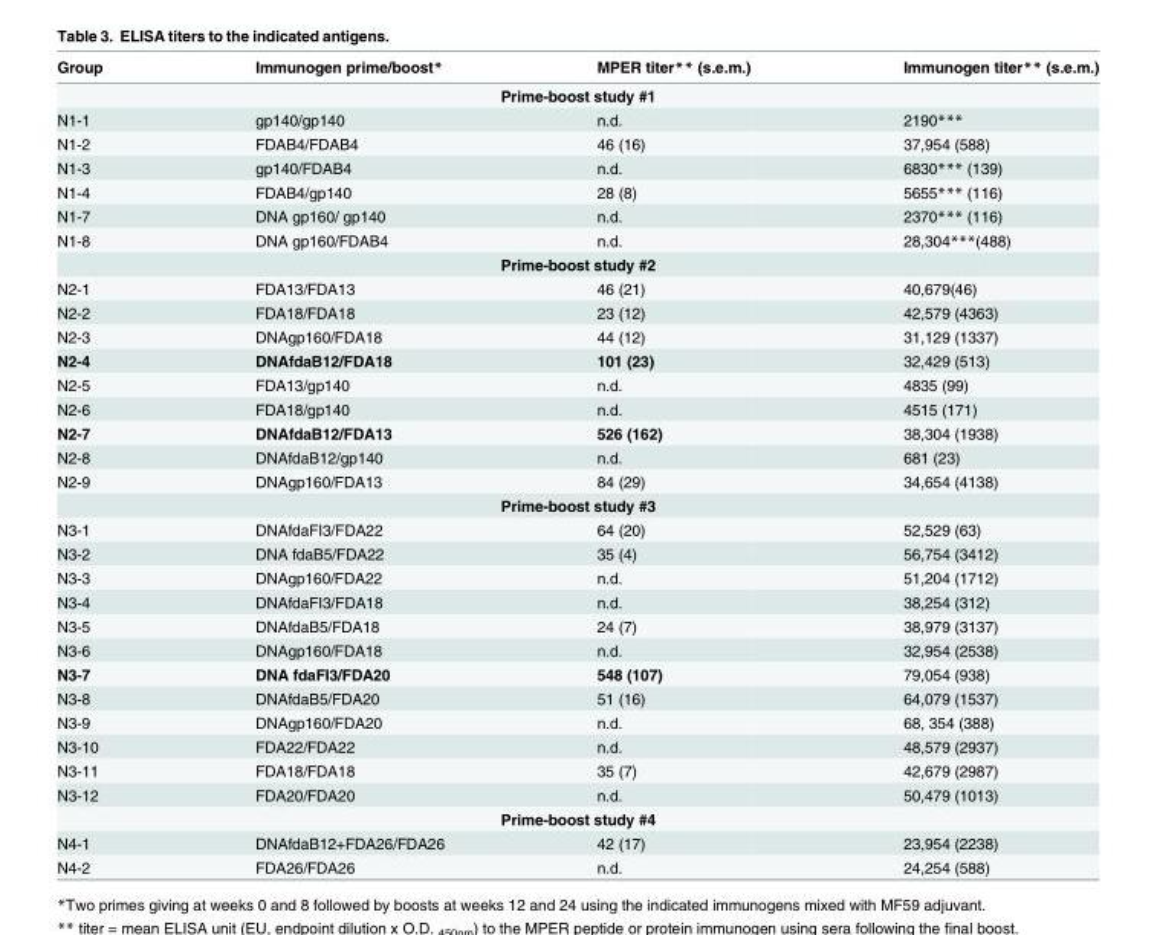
<table><thead><tr><td>Group</td><td>Immunogen prime/boost*</td><td>MPER titer** (s.e.m.)</td><td>Immunogen titer** (s.e.m.)</td></tr></thead><tbody><tr><td colspan="4">Prime-boost study #1</td></tr><tr><td>N1-1</td><td>gp140/gp140</td><td>n.d.</td><td>2190***</td></tr><tr><td>N1-2</td><td>FDAB4/FDAB4</td><td>46 (16)</td><td>37,954 (588)</td></tr><tr><td>N1-3</td><td>gp140/FDAB4</td><td>n.d.</td><td>6830*** (139)</td></tr><tr><td>N1-4</td><td>FDAB4/gp140</td><td>28 (8)</td><td>5655*** (116)</td></tr><tr><td>N1-7</td><td>DNA gp160/ gp140</td><td>n.d.</td><td>2370*** (116)</td></tr><tr><td>N1-8</td><td>DNA gp160/FDAB4</td><td>n.d.</td><td>28,304***(488)</td></tr><tr><td colspan="4">Prime-boost study #2</td></tr><tr><td>N2-1</td><td>FDA13/FDA13</td><td>46 (21)</td><td>40,679(46)</td></tr><tr><td>N2-2</td><td>FDA18/FDA18</td><td>23 (12)</td><td>42,579 (4363)</td></tr><tr><td>N2-3</td><td>DNAgp160/FDA18</td><td>44 (12)</td><td>31,129 (1337)</td></tr><tr><td>N2-4</td><td>DNAfdaB12/FDA18</td><td>101 (23)</td><td>32,429 (513)</td></tr><tr><td>N2-5</td><td>FDA13/gp140</td><td>n.d.</td><td>4835 (99)</td></tr><tr><td>N2-6</td><td>FDA18/gp140</td><td>n.d.</td><td>4515 (171)</td></tr><tr><td>N2-7</td><td>DNAfdaB12/FDA13</td><td>526 (162)</td><td>38,304 (1938)</td></tr><tr><td>N2-8</td><td>DNAfdaB12/gp140</td><td>n.d.</td><td>681 (23)</td></tr><tr><td>N2-9</td><td>DNAgp160/FDA13</td><td>84 (29)</td><td>34,654 (4138)</td></tr><tr><td colspan="4">Prime-boost study #3</td></tr><tr><td>N3-1</td><td>DNAfdaFI3/FDA22</td><td>64 (20)</td><td>52,529 (63)</td></tr><tr><td>N3-2</td><td>DNA fdaB5/FDA22</td><td>35 (4)</td><td>56,754 (3412)</td></tr><tr><td>N3-3</td><td>DNAgp160/FDA22</td><td>n.d.</td><td>51,204 (1712)</td></tr><tr><td>N3-4</td><td>DNAfdaFI3/FDA18</td><td>n.d.</td><td>38,254 (312)</td></tr><tr><td>N3-5</td><td>DNAfdaB5/FDA18</td><td>24 (7)</td><td>38,979 (3137)</td></tr><tr><td>N3-6</td><td>DNAgp160/FDA18</td><td>n.d.</td><td>32,954 (2538)</td></tr><tr><td>N3-7</td><td>DNA fdaFI3/FDA20</td><td>548 (107)</td><td>79,054 (938)</td></tr><tr><td>N3-8</td><td>DNAfdaB5/FDA20</td><td>51 (16)</td><td>64,079 (1537)</td></tr><tr><td>N3-9</td><td>DNAgp160/FDA20</td><td>n.d.</td><td>68, 354 (388)</td></tr><tr><td>N3-10</td><td>FDA22/FDA22</td><td>n.d.</td><td>48,579 (2937)</td></tr><tr><td>N3-11</td><td>FDA18/FDA18</td><td>35 (7)</td><td>42,679 (2987)</td></tr><tr><td>N3-12</td><td>FDA20/FDA20</td><td>n.d.</td><td>50,479 (1013)</td></tr><tr><td colspan="4">Prime-boost study #4</td></tr><tr><td>N4-1</td><td>DNAfdaB12+FDA26/FDA26</td><td>42 (17)</td><td>23,954 (2238)</td></tr><tr><td>N4-2</td><td>FDA26/FDA26</td><td>n.d.</td><td>24,254 (588)</td></tr></tbody></table>